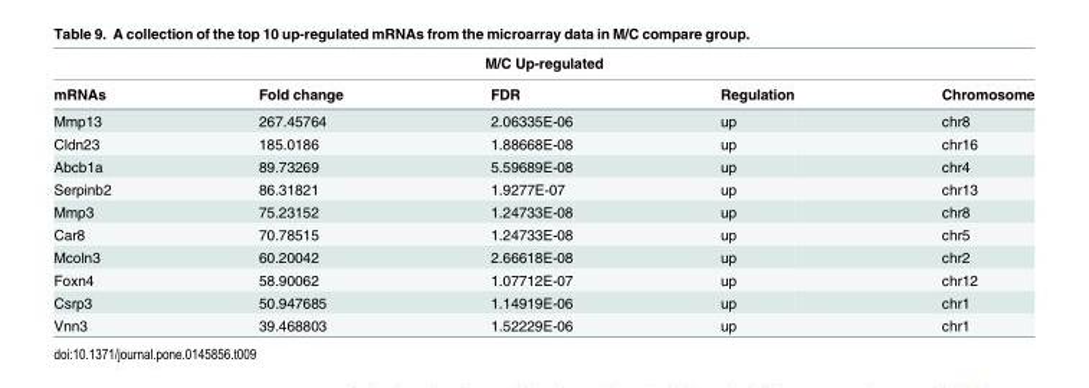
<table><thead><tr><td colspan="5">M/C Up-regulated</td></tr><tr><td>mRNAs</td><td>Fold change</td><td>FDR</td><td>Regulation</td><td>Chromosome</td></tr></thead><tbody><tr><td>Mmp13</td><td>267.45764</td><td>2.06335E-06</td><td>up</td><td>chr8</td></tr><tr><td>Cldn23</td><td>185.0186</td><td>1.88668E-08</td><td>up</td><td>chr16</td></tr><tr><td>Abcb1a</td><td>89.73269</td><td>5.59689E-08</td><td>up</td><td>chr4</td></tr><tr><td>Serpinb2</td><td>86.31821</td><td>1.9277E-07</td><td>up</td><td>chr13</td></tr><tr><td>Mmp3</td><td>75.23152</td><td>1.24733E-08</td><td>up</td><td>chr8</td></tr><tr><td>Car8</td><td>70.78515</td><td>1.24733E-08</td><td>up</td><td>chr5</td></tr><tr><td>Mcoln3</td><td>60.20042</td><td>2.66618E-08</td><td>up</td><td>chr2</td></tr><tr><td>Foxn4</td><td>58.90062</td><td>1.07712E-07</td><td>up</td><td>chr12</td></tr><tr><td>Csrp3</td><td>50.947685</td><td>1.14919E-06</td><td>up</td><td>chr1</td></tr><tr><td>Vnn3</td><td>39.468803</td><td>1.52229E-06</td><td>up</td><td>chr1</td></tr></tbody></table>